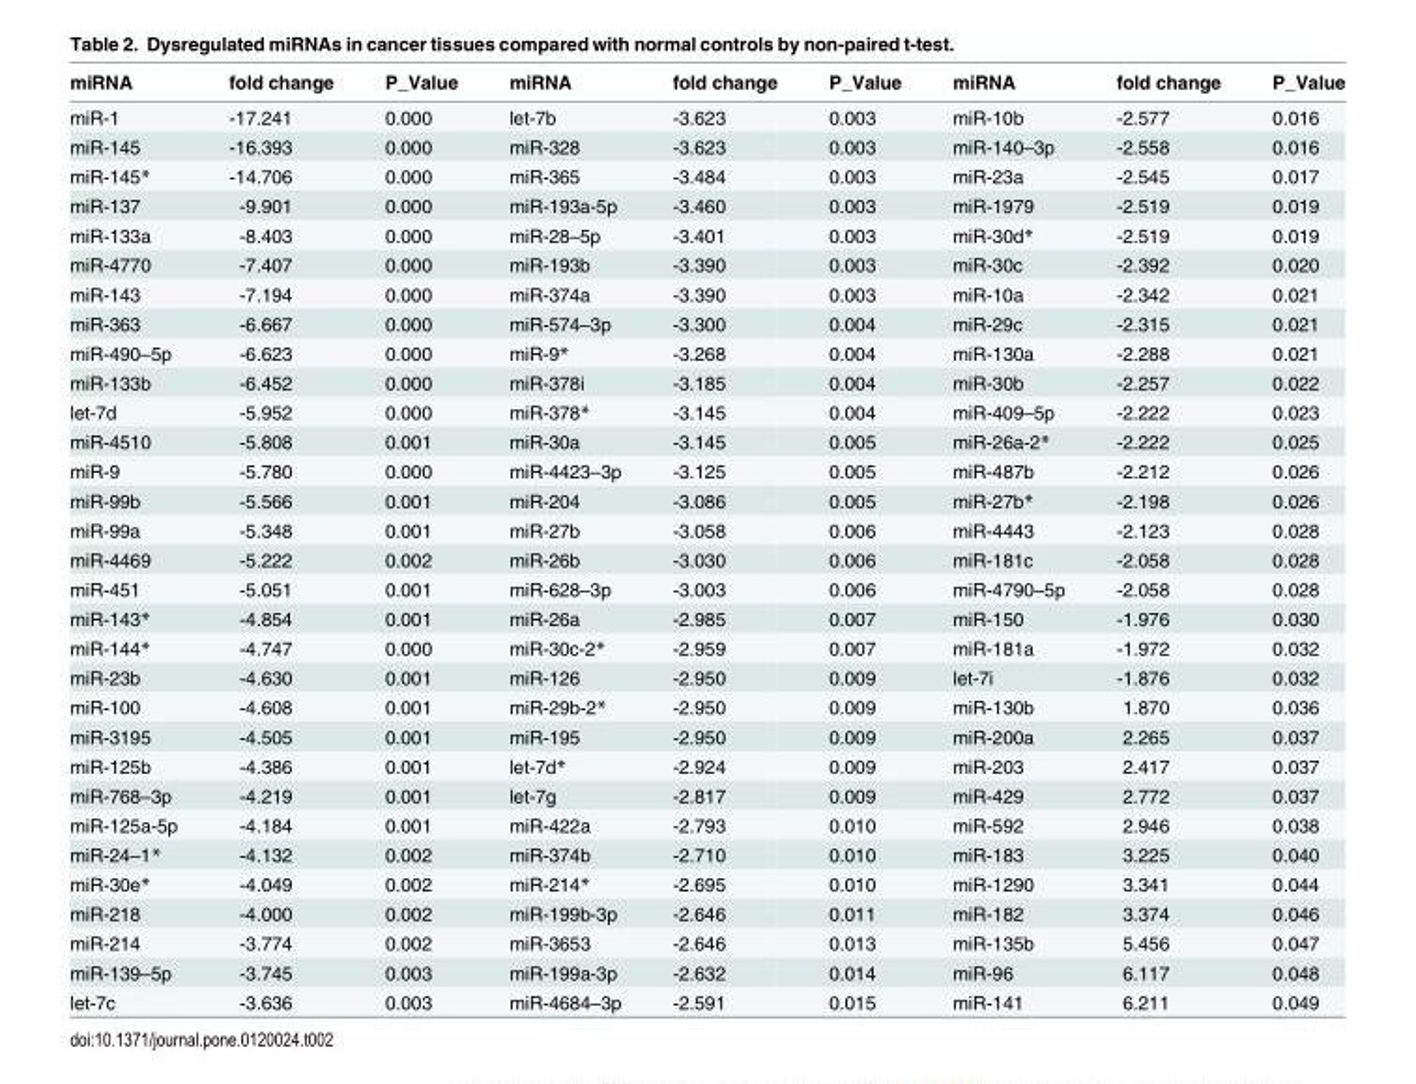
<table><thead><tr><td>miRNA</td><td>fold change</td><td>P_Value</td><td>miRNA</td><td>fold change</td><td>P_Value</td><td>miRNA</td><td>fold change</td><td>P_Value</td></tr></thead><tbody><tr><td>miR-1</td><td>-17.241</td><td>0.000</td><td>let-7b</td><td>-3.623</td><td>0.003</td><td>miR-10b</td><td>-2.577</td><td>0.016</td></tr><tr><td>miR-145</td><td>-16.393</td><td>0.000</td><td>miR-328</td><td>-3.623</td><td>0.003</td><td>miR-140–3p</td><td>-2.558</td><td>0.016</td></tr><tr><td>miR-145*</td><td>-14.706</td><td>0.000</td><td>miR-365</td><td>-3.484</td><td>0.003</td><td>miR-23a</td><td>-2.545</td><td>0.017</td></tr><tr><td>miR-137</td><td>-9.901</td><td>0.000</td><td>miR-193a-5p</td><td>-3.460</td><td>0.003</td><td>miR-1979</td><td>-2.519</td><td>0.019</td></tr><tr><td>miR-133a</td><td>-8.403</td><td>0.000</td><td>miR-28–5p</td><td>-3.401</td><td>0.003</td><td>miR-30d*</td><td>-2.519</td><td>0.019</td></tr><tr><td>miR-4770</td><td>-7.407</td><td>0.000</td><td>miR-193b</td><td>-3.390</td><td>0.003</td><td>miR-30c</td><td>-2.392</td><td>0.020</td></tr><tr><td>miR-143</td><td>-7.194</td><td>0.000</td><td>miR-374a</td><td>-3.390</td><td>0.003</td><td>miR-10a</td><td>-2.342</td><td>0.021</td></tr><tr><td>miR-363</td><td>-6.667</td><td>0.000</td><td>miR-574–3p</td><td>-3.300</td><td>0.004</td><td>miR-29c</td><td>-2.315</td><td>0.021</td></tr><tr><td>miR-490–5p</td><td>-6.623</td><td>0.000</td><td>miR-9*</td><td>-3.268</td><td>0.004</td><td>miR-130a</td><td>-2.288</td><td>0.021</td></tr><tr><td>miR-133b</td><td>-6.452</td><td>0.000</td><td>miR-378i</td><td>-3.185</td><td>0.004</td><td>miR-30b</td><td>-2.257</td><td>0.022</td></tr><tr><td>let-7d</td><td>-5.952</td><td>0.000</td><td>miR-378*</td><td>-3.145</td><td>0.004</td><td>miR-409–5p</td><td>-2.222</td><td>0.023</td></tr><tr><td>miR-4510</td><td>-5.808</td><td>0.001</td><td>miR-30a</td><td>-3.145</td><td>0.005</td><td>miR-26a-2*</td><td>-2.222</td><td>0.025</td></tr><tr><td>miR-9</td><td>-5.780</td><td>0.000</td><td>miR-4423–3p</td><td>-3.125</td><td>0.005</td><td>miR-487b</td><td>-2.212</td><td>0.026</td></tr><tr><td>miR-99b</td><td>-5.566</td><td>0.001</td><td>miR-204</td><td>-3.086</td><td>0.005</td><td>miR-27b*</td><td>-2.198</td><td>0.026</td></tr><tr><td>miR-99a</td><td>-5.348</td><td>0.001</td><td>miR-27b</td><td>-3.058</td><td>0.006</td><td>miR-4443</td><td>-2.123</td><td>0.028</td></tr><tr><td>miR-4469</td><td>-5.222</td><td>0.002</td><td>miR-26b</td><td>-3.030</td><td>0.006</td><td>miR-181c</td><td>-2.058</td><td>0.028</td></tr><tr><td>miR-451</td><td>-5.051</td><td>0.001</td><td>miR-628–3p</td><td>-3.003</td><td>0.006</td><td>miR-4790–5p</td><td>-2.058</td><td>0.028</td></tr><tr><td>miR-143*</td><td>-4.854</td><td>0.001</td><td>miR-26a</td><td>-2.985</td><td>0.007</td><td>miR-150</td><td>-1.976</td><td>0.030</td></tr><tr><td>miR-144*</td><td>-4.747</td><td>0.000</td><td>miR-30c-2*</td><td>-2.959</td><td>0.007</td><td>miR-181a</td><td>-1.972</td><td>0.032</td></tr><tr><td>miR-23b</td><td>-4.630</td><td>0.001</td><td>miR-126</td><td>-2.950</td><td>0.009</td><td>let-7i</td><td>-1.876</td><td>0.032</td></tr><tr><td>miR-100</td><td>-4.608</td><td>0.001</td><td>miR-29b-2*</td><td>-2.950</td><td>0.009</td><td>miR-130b</td><td>1.870</td><td>0.036</td></tr><tr><td>miR-3195</td><td>-4.505</td><td>0.001</td><td>miR-195</td><td>-2.950</td><td>0.009</td><td>miR-200a</td><td>2.265</td><td>0.037</td></tr><tr><td>miR-125b</td><td>-4.386</td><td>0.001</td><td>let-7d*</td><td>-2.924</td><td>0.009</td><td>miR-203</td><td>2.417</td><td>0.037</td></tr><tr><td>miR-768–3p</td><td>-4.219</td><td>0.001</td><td>let-7g</td><td>-2.817</td><td>0.009</td><td>miR-429</td><td>2.772</td><td>0.037</td></tr><tr><td>miR-125a-5p</td><td>-4.184</td><td>0.001</td><td>miR-422a</td><td>-2.793</td><td>0.010</td><td>miR-592</td><td>2.946</td><td>0.038</td></tr><tr><td>miR-24–1*</td><td>-4.132</td><td>0.002</td><td>miR-374b</td><td>-2.710</td><td>0.010</td><td>miR-183</td><td>3.225</td><td>0.040</td></tr><tr><td>miR-30e*</td><td>-4.049</td><td>0.002</td><td>miR-214*</td><td>-2.695</td><td>0.010</td><td>miR-1290</td><td>3.341</td><td>0.044</td></tr><tr><td>miR-218</td><td>-4.000</td><td>0.002</td><td>miR-199b-3p</td><td>-2.646</td><td>0.011</td><td>miR-182</td><td>3.374</td><td>0.046</td></tr><tr><td>miR-214</td><td>-3.774</td><td>0.002</td><td>miR-3653</td><td>-2.646</td><td>0.013</td><td>miR-135b</td><td>5.456</td><td>0.047</td></tr><tr><td>miR-139–5p</td><td>-3.745</td><td>0.003</td><td>miR-199a-3p</td><td>-2.632</td><td>0.014</td><td>miR-96</td><td>6.117</td><td>0.048</td></tr><tr><td>let-7c</td><td>-3.636</td><td>0.003</td><td>miR-4684–3p</td><td>-2.591</td><td>0.015</td><td>miR-141</td><td>6.211</td><td>0.049</td></tr></tbody></table>